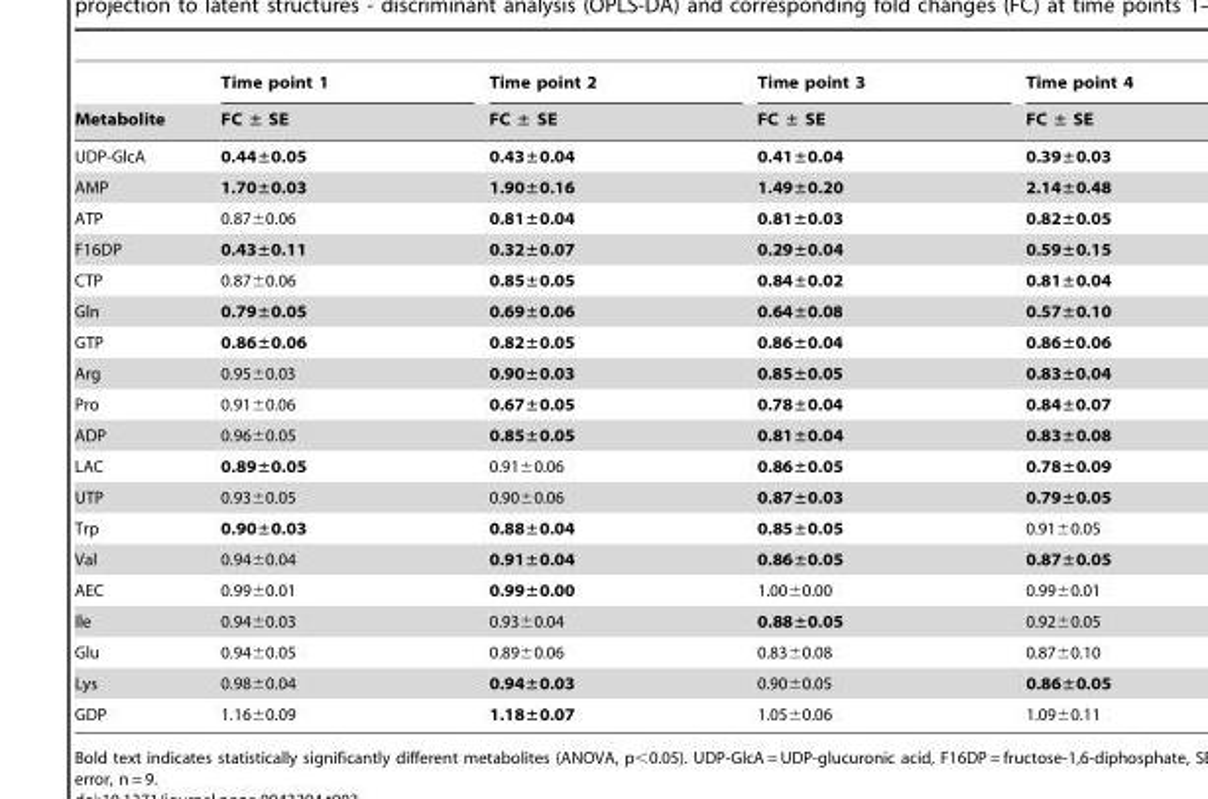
<table><thead><tr><td rowspan="2">Metabolite</td><td rowspan="2">Time point 1 FC ± SE</td><td rowspan="2">Time point 2 FC ± SE</td><td rowspan="2">Time point 3 FC ± SE</td><td rowspan="2">Time point 4 FC ± SE</td></tr><tr></tr></thead><tbody><tr><td>UDP-GlcA</td><td>0.44±0.05</td><td>0.43±0.04</td><td>0.41±0.04</td><td>0.39±0.03</td></tr><tr><td>AMP</td><td>1.70±0.03</td><td>1.90±0.16</td><td>1.49±0.20</td><td>2.14±0.48</td></tr><tr><td>ATP</td><td>0.87±0.06</td><td>0.81±0.04</td><td>0.81±0.03</td><td>0.82±0.05</td></tr><tr><td>F16DP</td><td>0.43±0.11</td><td>0.32±0.07</td><td>0.29±0.04</td><td>0.59±0.15</td></tr><tr><td>CTP</td><td>0.87±0.06</td><td>0.85±0.05</td><td>0.84±0.02</td><td>0.81±0.04</td></tr><tr><td>Gln</td><td>0.79±0.05</td><td>0.69±0.06</td><td>0.64±0.08</td><td>0.57±0.10</td></tr><tr><td>GTP</td><td>0.86±0.06</td><td>0.82±0.05</td><td>0.86±0.04</td><td>0.86±0.06</td></tr><tr><td>Arg</td><td>0.95±0.03</td><td>0.90±0.03</td><td>0.85±0.05</td><td>0.83±0.04</td></tr><tr><td>Pro</td><td>0.91±0.06</td><td>0.67±0.05</td><td>0.78±0.04</td><td>0.84±0.07</td></tr><tr><td>ADP</td><td>0.96±0.05</td><td>0.85±0.05</td><td>0.81±0.04</td><td>0.83±0.08</td></tr><tr><td>LAC</td><td>0.89±0.05</td><td>0.91±0.06</td><td>0.86±0.05</td><td>0.78±0.09</td></tr><tr><td>UTP</td><td>0.93±0.05</td><td>0.90±0.06</td><td>0.87±0.03</td><td>0.79±0.05</td></tr><tr><td>Trp</td><td>0.90±0.03</td><td>0.88±0.04</td><td>0.85±0.05</td><td>0.91±0.05</td></tr><tr><td>Val</td><td>0.94±0.04</td><td>0.91±0.04</td><td>0.86±0.05</td><td>0.87±0.05</td></tr><tr><td>AEC</td><td>0.99±0.01</td><td>0.99±0.00</td><td>1.00±0.00</td><td>0.99±0.01</td></tr><tr><td>Ile</td><td>0.94±0.03</td><td>0.93±0.04</td><td>0.88±0.05</td><td>0.92±0.05</td></tr><tr><td>Glu</td><td>0.94±0.05</td><td>0.89±0.06</td><td>0.83±0.08</td><td>0.87±0.10</td></tr><tr><td>Lys</td><td>0.98±0.04</td><td>0.94±0.03</td><td>0.90±0.05</td><td>0.86±0.05</td></tr><tr><td>GDP</td><td>1.16±0.09</td><td>1.18±0.07</td><td>1.05±0.06</td><td>1.09±0.11</td></tr></tbody></table>